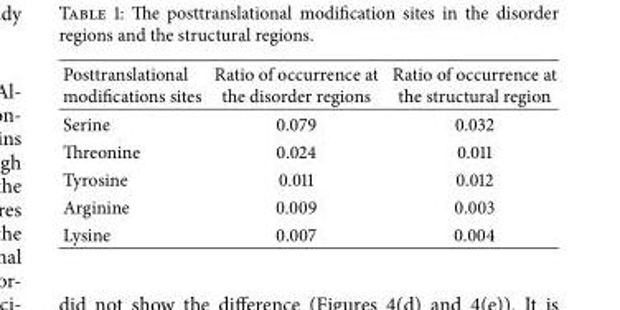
<table><thead><tr><td>Posttranslational modifications sites</td><td>Ratio of occurrence at the disorder regions</td><td>Ratio of occurrence at the structural region</td></tr></thead><tbody><tr><td>Serine</td><td>0.079</td><td>0.032</td></tr><tr><td>Threonine</td><td>0.024</td><td>0.011</td></tr><tr><td>Tyrosine</td><td>0.011</td><td>0.012</td></tr><tr><td>Arginine</td><td>0.009</td><td>0.003</td></tr><tr><td>Lysine</td><td>0.007</td><td>0.004</td></tr></tbody></table>